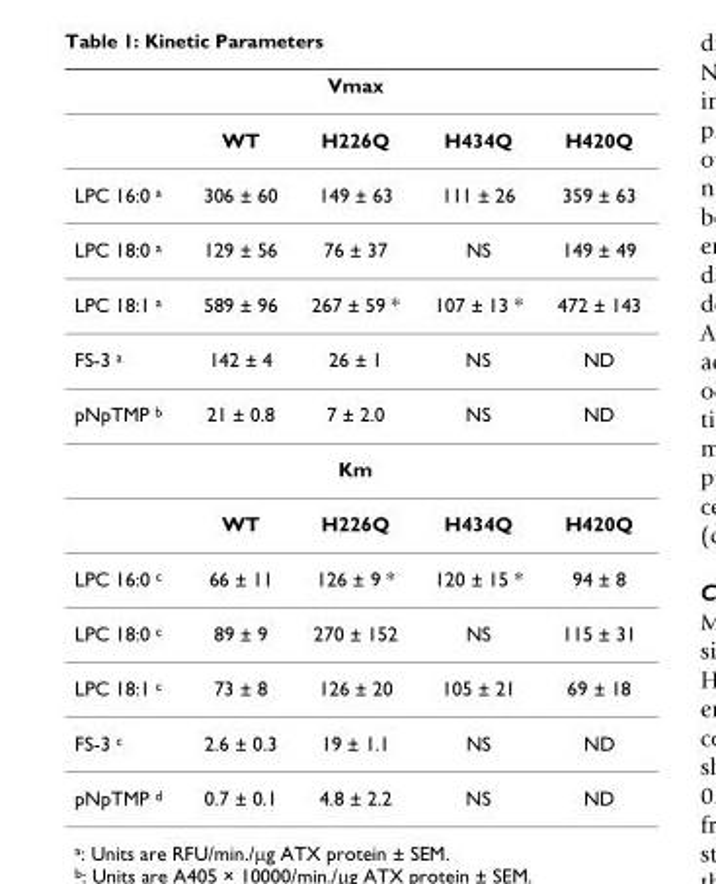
<table><thead><tr><td></td><td></td><td>Vmax</td><td></td><td></td></tr></thead><tbody><tr><td></td><td>WT</td><td>H226Q</td><td>H434Q</td><td>H420Q</td></tr><tr><td>LPC 16:0 <sup>a</sup></td><td>306 ± 60</td><td>149 ± 63</td><td>111 ± 26</td><td>359 ± 63</td></tr><tr><td>LPC 18:0 <sup>a</sup></td><td>129 ± 56</td><td>76 ± 37</td><td>NS</td><td>149 ± 49</td></tr><tr><td>LPC 18:1 <sup>a</sup></td><td>589 ± 96</td><td>267 ± 59 *</td><td>107 ± 13 *</td><td>472 ± 143</td></tr><tr><td>FS-3 <sup>a</sup></td><td>142 ± 4</td><td>26 ± 1</td><td>NS</td><td>ND</td></tr><tr><td rowspan="3">pNpTMP <sup>b</sup></td><td>21 ± 0.8</td><td>7 ± 2.0</td><td>NS</td><td>ND</td></tr><tr><td></td><td>Km</td><td></td><td></td></tr><tr><td>WT</td><td>H226Q</td><td>H434Q</td><td>H420Q</td></tr><tr><td>LPC 16:0 <sup>c</sup></td><td>66 ± 11</td><td>126 ± 9 *</td><td>120 ± 15 *</td><td>94 ± 8</td></tr><tr><td>LPC 18:0 <sup>c</sup></td><td>89 ± 9</td><td>270 ± 152</td><td>NS</td><td>115 ± 31</td></tr><tr><td>LPC 18:1 <sup>c</sup></td><td>73 ± 8</td><td>126 ± 20</td><td>105 ± 21</td><td>69 ± 18</td></tr><tr><td>FS-3 <sup>c</sup></td><td>2.6 ± 0.3</td><td>19 ± 1.1</td><td>NS</td><td>ND</td></tr><tr><td>pNpTMP <sup>d</sup></td><td>0.7 ± 0.1</td><td>4.8 ± 2.2</td><td>NS</td><td>ND</td></tr></tbody></table>